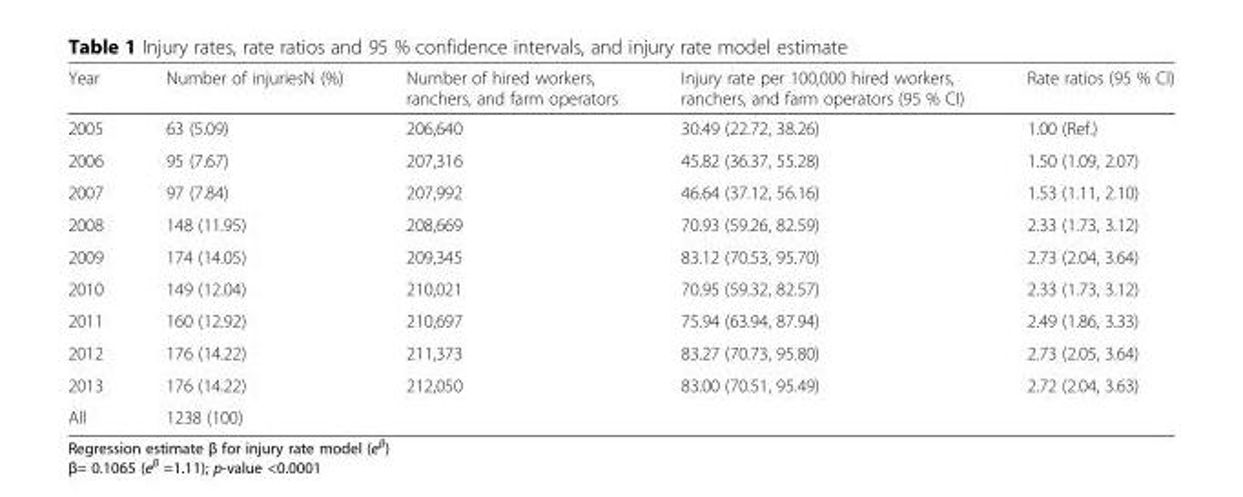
<table><thead><tr><td>Year</td><td>Number of injuriesN (%)</td><td>Number of hired workers, ranchers, and farm operators</td><td>Injury rate per 100,000 hired workers, ranchers, and farm operators (95 % CI)</td><td>Rate ratios (95 % CI)</td></tr></thead><tbody><tr><td>2005</td><td>63 (5.09)</td><td>206,640</td><td>30.49 (22.72, 38.26)</td><td>1.00 (Ref.)</td></tr><tr><td>2006</td><td>95 (7.67)</td><td>207,316</td><td>45.82 (36.37, 55.28)</td><td>1.50 (1.09, 2.07)</td></tr><tr><td>2007</td><td>97 (7.84)</td><td>207,992</td><td>46.64 (37.12, 56.16)</td><td>1.53 (1.11, 2.10)</td></tr><tr><td>2008</td><td>148 (11.95)</td><td>208,669</td><td>70.93 (59.26, 82.59)</td><td>2.33 (1.73, 3.12)</td></tr><tr><td>2009</td><td>174 (14.05)</td><td>209,345</td><td>83.12 (70.53, 95.70)</td><td>2.73 (2.04, 3.64)</td></tr><tr><td>2010</td><td>149 (12.04)</td><td>210,021</td><td>70.95 (59.32, 82.57)</td><td>2.33 (1.73, 3.12)</td></tr><tr><td>2011</td><td>160 (12.92)</td><td>210,697</td><td>75.94 (63.94, 87.94)</td><td>2.49 (1.86, 3.33)</td></tr><tr><td>2012</td><td>176 (14.22)</td><td>211,373</td><td>83.27 (70.73, 95.80)</td><td>2.73 (2.05, 3.64)</td></tr><tr><td>2013</td><td>176 (14.22)</td><td>212,050</td><td>83.00 (70.51, 95.49)</td><td>2.72 (2.04, 3.63)</td></tr><tr><td>All</td><td>1238 (100)</td><td></td><td></td><td></td></tr></tbody></table>